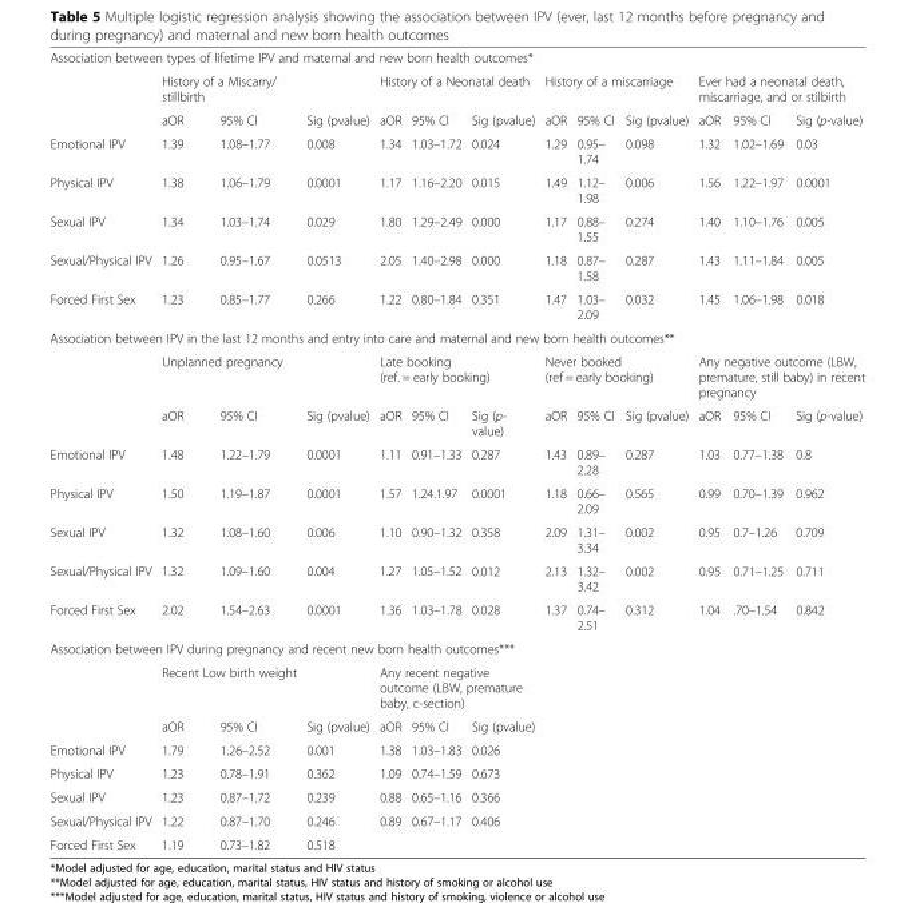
<table><tbody><tr><td colspan="13">Association between types of lifetime IPV and maternal and new born health outcomes*</td></tr><tr><td></td><td colspan="3">History of a Miscarry/ stillbirth</td><td colspan="3">History of a Neonatal death</td><td colspan="3">History of a miscarriage</td><td colspan="3">Ever had a neonatal death, miscarriage, and or stilbirth</td></tr><tr><td></td><td>aOR</td><td>95% CI</td><td>Sig (pvalue)</td><td>aOR</td><td>95% CI</td><td>Sig (pvalue)</td><td>aOR</td><td>95% CI</td><td>Sig (pvalue)</td><td>aOR</td><td>95% CI</td><td>Sig (p-value)</td></tr><tr><td>Emotional IPV</td><td>1.39</td><td>1.08–1.77</td><td>0.008</td><td>1.34</td><td>1.03–1.72</td><td>0.024</td><td>1.29</td><td>0.95– 1.74</td><td>0.098</td><td>1.32</td><td>1.02–1.69</td><td>0.03</td></tr><tr><td>Physical IPV</td><td>1.38</td><td>1.06–1.79</td><td>0.0001</td><td>1.17</td><td>1.16–2.20</td><td>0.015</td><td>1.49</td><td>1.12– 1.98</td><td>0.006</td><td>1.56</td><td>1.22–1.97</td><td>0.0001</td></tr><tr><td>Sexual IPV</td><td>1.34</td><td>1.03–1.74</td><td>0.029</td><td>1.80</td><td>1.29–2.49</td><td>0.000</td><td>1.17</td><td>0.88– 1.55</td><td>0.274</td><td>1.40</td><td>1.10–1.76</td><td>0.005</td></tr><tr><td>Sexual/Physical IPV</td><td>1.26</td><td>0.95–1.67</td><td>0.0513</td><td>2.05</td><td>1.40–2.98</td><td>0.000</td><td>1.18</td><td>0.87– 1.58</td><td>0.287</td><td>1.43</td><td>1.11–1.84</td><td>0.005</td></tr><tr><td>Forced First Sex</td><td>1.23</td><td>0.85–1.77</td><td>0.266</td><td>1.22</td><td>0.80–1.84</td><td>0.351</td><td>1.47</td><td>1.03– 2.09</td><td>0.032</td><td>1.45</td><td>1.06–1.98</td><td>0.018</td></tr><tr><td colspan="13">Association between IPV in the last 12 months and entry into care and maternal and new born health outcomes**</td></tr><tr><td></td><td colspan="2">Unplanned pregnancy</td><td></td><td colspan="3">Late booking (ref. = early booking)</td><td colspan="3">Never booked (ref = early booking)</td><td colspan="3">Any negative outcome (LBW, premature, still baby) in recent pregnancy</td></tr><tr><td></td><td>aOR</td><td>95% CI</td><td>Sig (pvalue)</td><td>aOR</td><td>95% CI</td><td>Sig (p- value)</td><td>aOR</td><td>95% CI</td><td>Sig (pvalue)</td><td>aOR</td><td>95% CI</td><td>Sig (p-value)</td></tr><tr><td>Emotional IPV</td><td>1.48</td><td>1.22–1.79</td><td>0.0001</td><td>1.11</td><td>0.91–1.33</td><td>0.287</td><td>1.43</td><td>0.89– 2.28</td><td>0.287</td><td>1.03</td><td>0.77–1.38</td><td>0.8</td></tr><tr><td>Physical IPV</td><td>1.50</td><td>1.19–1.87</td><td>0.0001</td><td>1.57</td><td>1.24.1.97</td><td>0.0001</td><td>1.18</td><td>0.66– 2.09</td><td>0.565</td><td>0.99</td><td>0.70–1.39</td><td>0.962</td></tr><tr><td>Sexual IPV</td><td>1.32</td><td>1.08–1.60</td><td>0.006</td><td>1.10</td><td>0.90–1.32</td><td>0.358</td><td>2.09</td><td>1.31– 3.34</td><td>0.002</td><td>0.95</td><td>0.7–1.26</td><td>0.709</td></tr><tr><td>Sexual/Physical IPV</td><td>1.32</td><td>1.09–1.60</td><td>0.004</td><td>1.27</td><td>1.05–1.52</td><td>0.012</td><td>2.13</td><td>1.32– 3.42</td><td>0.002</td><td>0.95</td><td>0.71–1.25</td><td>0.711</td></tr><tr><td>Forced First Sex</td><td>2.02</td><td>1.54–2.63</td><td>0.0001</td><td>1.36</td><td>1.03–1.78</td><td>0.028</td><td>1.37</td><td>0.74– 2.51</td><td>0.312</td><td>1.04</td><td>.70–1.54</td><td>0.842</td></tr><tr><td colspan="13">Association between IPV during pregnancy and recent new born health outcomes***</td></tr><tr><td></td><td colspan="2">Recent Low birth weight</td><td></td><td colspan="3">Any recent negative outcome (LBW, premature baby, c-section)</td><td></td><td></td><td></td><td></td><td></td><td></td></tr><tr><td></td><td>aOR</td><td>95% CI</td><td>Sig (pvalue)</td><td>aOR</td><td>95% CI</td><td>Sig (pvalue)</td><td></td><td></td><td></td><td></td><td></td><td></td></tr><tr><td>Emotional IPV</td><td>1.79</td><td>1.26–2.52</td><td>0.001</td><td>1.38</td><td>1.03–1.83</td><td>0.026</td><td></td><td></td><td></td><td></td><td></td><td></td></tr><tr><td>Physical IPV</td><td>1.23</td><td>0.78–1.91</td><td>0.362</td><td>1.09</td><td>0.74–1.59</td><td>0.673</td><td></td><td></td><td></td><td></td><td></td><td></td></tr><tr><td>Sexual IPV</td><td>1.23</td><td>0.87–1.72</td><td>0.239</td><td>0.88</td><td>0.65–1.16</td><td>0.366</td><td></td><td></td><td></td><td></td><td></td><td></td></tr><tr><td>Sexual/Physical IPV</td><td>1.22</td><td>0.87–1.70</td><td>0.246</td><td>0.89</td><td>0.67–1.17</td><td>0.406</td><td></td><td></td><td></td><td></td><td></td><td></td></tr><tr><td>Forced First Sex</td><td>1.19</td><td>0.73–1.82</td><td>0.518</td><td></td><td></td><td></td><td></td><td></td><td></td><td></td><td></td><td></td></tr></tbody></table>